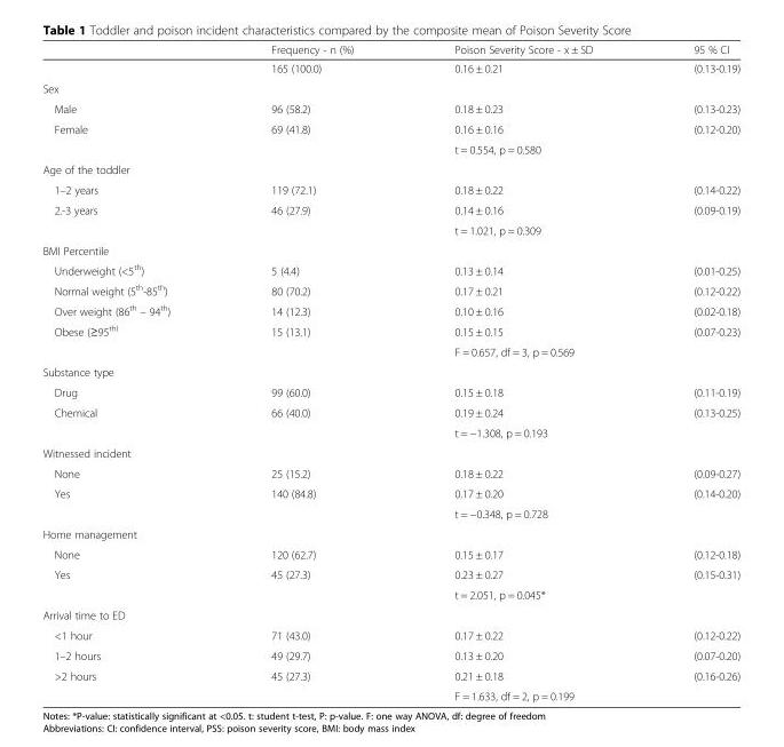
<table><thead><tr><td></td><td>Frequency - n (%)</td><td>Poison Severity Score - x ± SD</td><td>95 % CI</td></tr></thead><tbody><tr><td></td><td>165 (100.0)</td><td>0.16 ± 0.21</td><td>(0.13-0.19)</td></tr><tr><td colspan="4">Sex</td></tr><tr><td>Male</td><td>96 (58.2)</td><td>0.18 ± 0.23</td><td>(0.13-0.23)</td></tr><tr><td rowspan="2">Female</td><td>69 (41.8)</td><td>0.16 ± 0.16</td><td>(0.12-0.20)</td></tr><tr><td></td><td>t = 0.554, p = 0.580</td><td></td></tr><tr><td colspan="4">Age of the toddler</td></tr><tr><td>1–2 years</td><td>119 (72.1)</td><td>0.18 ± 0.22</td><td>(0.14-0.22)</td></tr><tr><td rowspan="2">2.-3 years</td><td>46 (27.9)</td><td>0.14 ± 0.16</td><td>(0.09-0.19)</td></tr><tr><td></td><td>t = 1.021, p = 0.309</td><td></td></tr><tr><td colspan="4">BMI Percentile</td></tr><tr><td>Underweight (&lt;5<sup>th</sup>)</td><td>5 (4.4)</td><td>0.13 ± 0.14</td><td>(0.01-0.25)</td></tr><tr><td>Normal weight (5<sup>th</sup>-85<sup>th</sup>)</td><td>80 (70.2)</td><td>0.17 ± 0.21</td><td>(0.12-0.22)</td></tr><tr><td>Over weight (86<sup>th</sup> – 94<sup>th</sup>)</td><td>14 (12.3)</td><td>0.10 ± 0.16</td><td>(0.02-0.18)</td></tr><tr><td rowspan="2">Obese (≥95<sup>th)</sup></td><td>15 (13.1)</td><td>0.15 ± 0.15</td><td>(0.07-0.23)</td></tr><tr><td></td><td>F = 0.657, df = 3, p = 0.569</td><td></td></tr><tr><td colspan="4">Substance type</td></tr><tr><td>Drug</td><td>99 (60.0)</td><td>0.15 ± 0.18</td><td>(0.11-0.19)</td></tr><tr><td rowspan="2">Chemical</td><td>66 (40.0)</td><td>0.19 ± 0.24</td><td>(0.13-0.25)</td></tr><tr><td></td><td>t = −1.308, p = 0.193</td><td></td></tr><tr><td colspan="4">Witnessed incident</td></tr><tr><td>None</td><td>25 (15.2)</td><td>0.18 ± 0.22</td><td>(0.09-0.27)</td></tr><tr><td rowspan="2">Yes</td><td>140 (84.8)</td><td>0.17 ± 0.20</td><td>(0.14-0.20)</td></tr><tr><td></td><td>t = −0.348, p = 0.728</td><td></td></tr><tr><td colspan="4">Home management</td></tr><tr><td>None</td><td>120 (62.7)</td><td>0.15 ± 0.17</td><td>(0.12-0.18)</td></tr><tr><td rowspan="2">Yes</td><td>45 (27.3)</td><td>0.23 ± 0.27</td><td>(0.15-0.31)</td></tr><tr><td></td><td>t = 2.051, p = 0.045*</td><td></td></tr><tr><td colspan="4">Arrival time to ED</td></tr><tr><td>&lt;1 hour</td><td>71 (43.0)</td><td>0.17 ± 0.22</td><td>(0.12-0.22)</td></tr><tr><td>1–2 hours</td><td>49 (29.7)</td><td>0.13 ± 0.20</td><td>(0.07-0.20)</td></tr><tr><td rowspan="2">&gt;2 hours</td><td>45 (27.3)</td><td>0.21 ± 0.18</td><td>(0.16-0.26)</td></tr><tr><td></td><td>F = 1.633, df = 2, p = 0.199</td><td></td></tr></tbody></table>